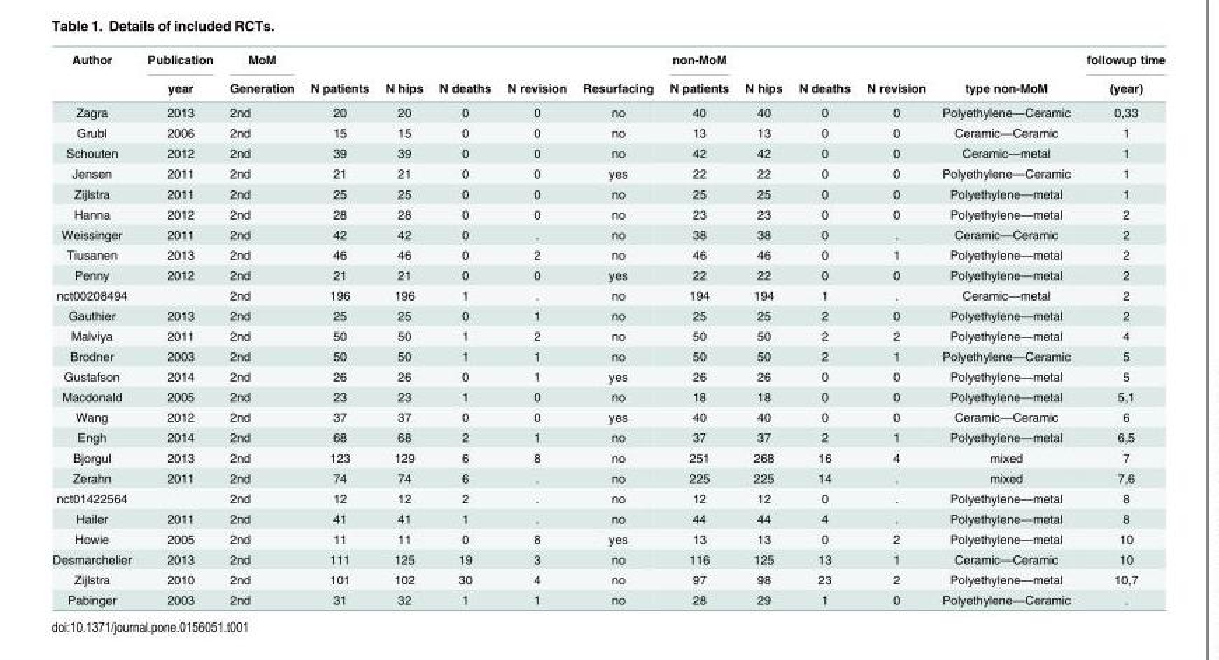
<table><thead><tr><td rowspan="2">Author</td><td rowspan="2">Publication year</td><td rowspan="2">MoM Generation</td><td rowspan="2">N patients</td><td rowspan="2">N hips</td><td rowspan="2">N deaths</td><td rowspan="2">N revision</td><td rowspan="2">Resurfacing</td><td rowspan="2">non-MoM N patients</td><td rowspan="2">N hips</td><td rowspan="2">N deaths</td><td rowspan="2">N revision</td><td rowspan="2">type non-MoM</td><td rowspan="2">followup time (year)</td></tr><tr></tr></thead><tbody><tr><td>Zagra</td><td>2013</td><td>2nd</td><td>20</td><td>20</td><td>0</td><td>0</td><td>no</td><td>40</td><td>40</td><td>0</td><td>0</td><td>Polyethylene—Ceramic</td><td>0,33</td></tr><tr><td>Grubl</td><td>2006</td><td>2nd</td><td>15</td><td>15</td><td>0</td><td>0</td><td>no</td><td>13</td><td>13</td><td>0</td><td>0</td><td>Ceramic—Ceramic</td><td>1</td></tr><tr><td>Schouten</td><td>2012</td><td>2nd</td><td>39</td><td>39</td><td>0</td><td>0</td><td>no</td><td>42</td><td>42</td><td>0</td><td>0</td><td>Ceramic—metal</td><td>1</td></tr><tr><td>Jensen</td><td>2011</td><td>2nd</td><td>21</td><td>21</td><td>0</td><td>0</td><td>yes</td><td>22</td><td>22</td><td>0</td><td>0</td><td>Polyethylene—Ceramic</td><td>1</td></tr><tr><td>Zijlstra</td><td>2011</td><td>2nd</td><td>25</td><td>25</td><td>0</td><td>0</td><td>no</td><td>25</td><td>25</td><td>0</td><td>0</td><td>Polyethylene—metal</td><td>1</td></tr><tr><td>Hanna</td><td>2012</td><td>2nd</td><td>28</td><td>28</td><td>0</td><td>0</td><td>no</td><td>23</td><td>23</td><td>0</td><td>0</td><td>Polyethylene—metal</td><td>2</td></tr><tr><td>Weissinger</td><td>2011</td><td>2nd</td><td>42</td><td>42</td><td>0</td><td>.</td><td>no</td><td>38</td><td>38</td><td>0</td><td>.</td><td>Ceramic—Ceramic</td><td>2</td></tr><tr><td>Tiusanen</td><td>2013</td><td>2nd</td><td>46</td><td>46</td><td>0</td><td>2</td><td>no</td><td>46</td><td>46</td><td>0</td><td>1</td><td>Polyethylene—metal</td><td>2</td></tr><tr><td>Penny</td><td>2012</td><td>2nd</td><td>21</td><td>21</td><td>0</td><td>0</td><td>yes</td><td>22</td><td>22</td><td>0</td><td>0</td><td>Polyethylene—metal</td><td>2</td></tr><tr><td>nct00208494</td><td></td><td>2nd</td><td>196</td><td>196</td><td>1</td><td>.</td><td>no</td><td>194</td><td>194</td><td>1</td><td>.</td><td>Ceramic—metal</td><td>2</td></tr><tr><td>Gauthier</td><td>2013</td><td>2nd</td><td>25</td><td>25</td><td>0</td><td>1</td><td>no</td><td>25</td><td>25</td><td>2</td><td>0</td><td>Polyethylene—metal</td><td>2</td></tr><tr><td>Malviya</td><td>2011</td><td>2nd</td><td>50</td><td>50</td><td>1</td><td>2</td><td>no</td><td>50</td><td>50</td><td>2</td><td>2</td><td>Polyethylene—metal</td><td>4</td></tr><tr><td>Brodner</td><td>2003</td><td>2nd</td><td>50</td><td>50</td><td>1</td><td>1</td><td>no</td><td>50</td><td>50</td><td>2</td><td>1</td><td>Polyethylene—Ceramic</td><td>5</td></tr><tr><td>Gustafson</td><td>2014</td><td>2nd</td><td>26</td><td>26</td><td>0</td><td>1</td><td>yes</td><td>26</td><td>26</td><td>0</td><td>0</td><td>Polyethylene—metal</td><td>5</td></tr><tr><td>Macdonald</td><td>2005</td><td>2nd</td><td>23</td><td>23</td><td>1</td><td>0</td><td>no</td><td>18</td><td>18</td><td>0</td><td>0</td><td>Polyethylene—metal</td><td>5,1</td></tr><tr><td>Wang</td><td>2012</td><td>2nd</td><td>37</td><td>37</td><td>0</td><td>0</td><td>yes</td><td>40</td><td>40</td><td>0</td><td>0</td><td>Ceramic—Ceramic</td><td>6</td></tr><tr><td>Engh</td><td>2014</td><td>2nd</td><td>68</td><td>68</td><td>2</td><td>1</td><td>no</td><td>37</td><td>37</td><td>2</td><td>1</td><td>Polyethylene—metal</td><td>6,5</td></tr><tr><td>Bjorgul</td><td>2013</td><td>2nd</td><td>123</td><td>129</td><td>6</td><td>8</td><td>no</td><td>251</td><td>268</td><td>16</td><td>4</td><td>mixed</td><td>7</td></tr><tr><td>Zerahn</td><td>2011</td><td>2nd</td><td>74</td><td>74</td><td>6</td><td>.</td><td>no</td><td>225</td><td>225</td><td>14</td><td>.</td><td>mixed</td><td>7,6</td></tr><tr><td>nct01422564</td><td></td><td>2nd</td><td>12</td><td>12</td><td>2</td><td>.</td><td>no</td><td>12</td><td>12</td><td>0</td><td>.</td><td>Polyethylene—metal</td><td>8</td></tr><tr><td>Hailer</td><td>2011</td><td>2nd</td><td>41</td><td>41</td><td>1</td><td>.</td><td>no</td><td>44</td><td>44</td><td>4</td><td>.</td><td>Polyethylene—metal</td><td>8</td></tr><tr><td>Howie</td><td>2005</td><td>2nd</td><td>11</td><td>11</td><td>0</td><td>8</td><td>yes</td><td>13</td><td>13</td><td>0</td><td>2</td><td>Polyethylene—metal</td><td>10</td></tr><tr><td>Desmarchelier</td><td>2013</td><td>2nd</td><td>111</td><td>125</td><td>19</td><td>3</td><td>no</td><td>116</td><td>125</td><td>13</td><td>1</td><td>Ceramic—Ceramic</td><td>10</td></tr><tr><td>Zijlstra</td><td>2010</td><td>2nd</td><td>101</td><td>102</td><td>30</td><td>4</td><td>no</td><td>97</td><td>98</td><td>23</td><td>2</td><td>Polyethylene—metal</td><td>10,7</td></tr><tr><td>Pabinger</td><td>2003</td><td>2nd</td><td>31</td><td>32</td><td>1</td><td>1</td><td>no</td><td>28</td><td>29</td><td>1</td><td>0</td><td>Polyethylene—Ceramic</td><td>.</td></tr></tbody></table>